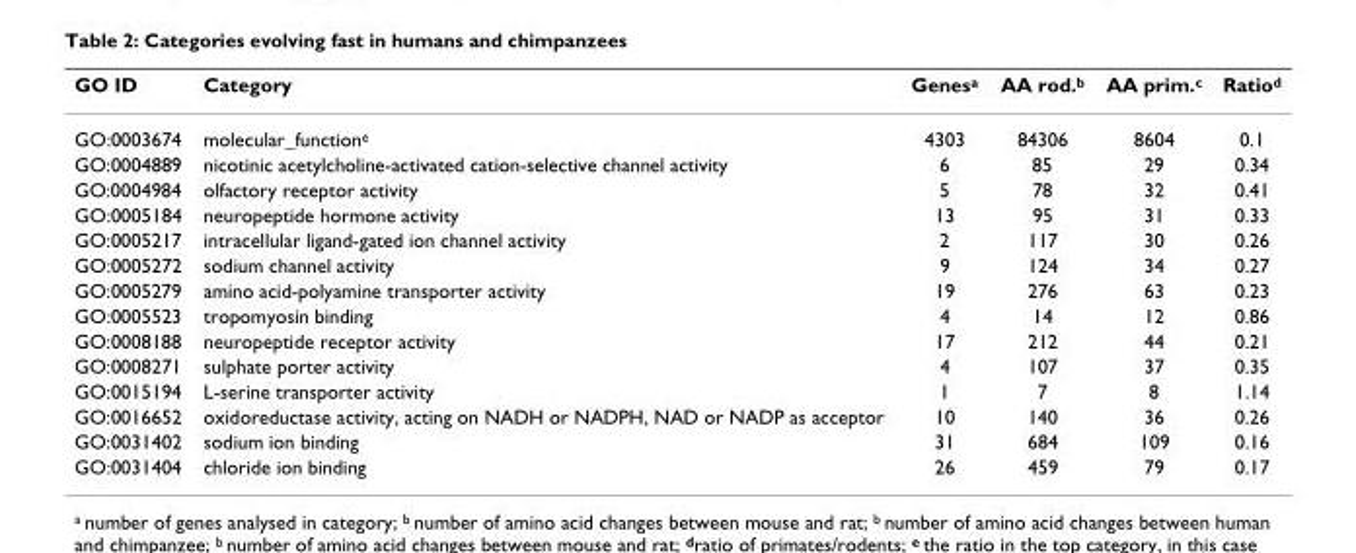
<table><thead><tr><td>GO ID</td><td>Category</td><td>Genes<sup>a</sup></td><td>AA rod.<sup>b</sup></td><td>AA prim.<sup>c</sup></td><td>Ratio<sup>d</sup></td></tr></thead><tbody><tr><td>GO:0003674</td><td>molecular_function<sup>e</sup></td><td>4303</td><td>84306</td><td>8604</td><td>0.1</td></tr><tr><td>GO:0004889</td><td>nicotinic acetylcholine-activated cation-selective channel activity</td><td>6</td><td>85</td><td>29</td><td>0.34</td></tr><tr><td>GO:0004984</td><td>olfactory receptor activity</td><td>5</td><td>78</td><td>32</td><td>0.41</td></tr><tr><td>GO:0005184</td><td>neuropeptide hormone activity</td><td>13</td><td>95</td><td>31</td><td>0.33</td></tr><tr><td>GO:0005217</td><td>intracellular ligand-gated ion channel activity</td><td>2</td><td>117</td><td>30</td><td>0.26</td></tr><tr><td>GO:0005272</td><td>sodium channel activity</td><td>9</td><td>124</td><td>34</td><td>0.27</td></tr><tr><td>GO:0005279</td><td>amino acid-polyamine transporter activity</td><td>19</td><td>276</td><td>63</td><td>0.23</td></tr><tr><td>GO:0005523</td><td>tropomyosin binding</td><td>4</td><td>14</td><td>12</td><td>0.86</td></tr><tr><td>GO:0008188</td><td>neuropeptide receptor activity</td><td>17</td><td>212</td><td>44</td><td>0.21</td></tr><tr><td>GO:0008271</td><td>sulphate porter activity</td><td>4</td><td>107</td><td>37</td><td>0.35</td></tr><tr><td>GO:0015194</td><td>L-serine transporter activity</td><td>1</td><td>7</td><td>8</td><td>1.14</td></tr><tr><td>GO:0016652</td><td>oxidoreductase activity, acting on NADH or NADPH, NAD or NADP as acceptor</td><td>10</td><td>140</td><td>36</td><td>0.26</td></tr><tr><td>GO:0031402</td><td>sodium ion binding</td><td>31</td><td>684</td><td>109</td><td>0.16</td></tr><tr><td>GO:0031404</td><td>chloride ion binding</td><td>26</td><td>459</td><td>79</td><td>0.17</td></tr></tbody></table>